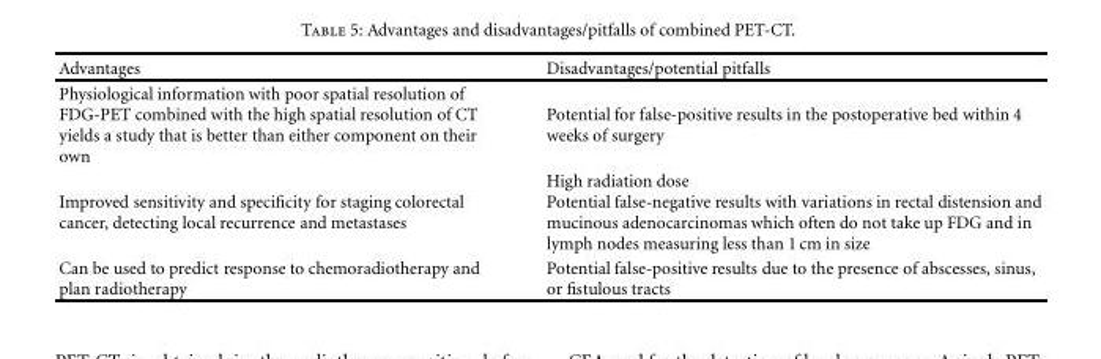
<table><thead><tr><td>Advantages</td><td>Disadvantages/potential pitfalls</td></tr></thead><tbody><tr><td>Physiological information with poor spatial resolution of FDG-PET combined with the high spatial resolution of CT yields a study that is better than either component on their own</td><td>Potential for false-positive results in the postoperative bed within 4 weeks of surgery</td></tr><tr><td>Improved sensitivity and specificity for staging colorectal cancer, detecting local recurrence and metastases</td><td>High radiation dose Potential false-negative results with variations in rectal distension and mucinous adenocarcinomas which often do not take up FDG and in lymph nodes measuring less than 1 cm in size</td></tr><tr><td>Can be used to predict response to chemoradiotherapy and plan radiotherapy</td><td>Potential false-positive results due to the presence of abscesses, sinus, or fistulous tracts</td></tr></tbody></table>